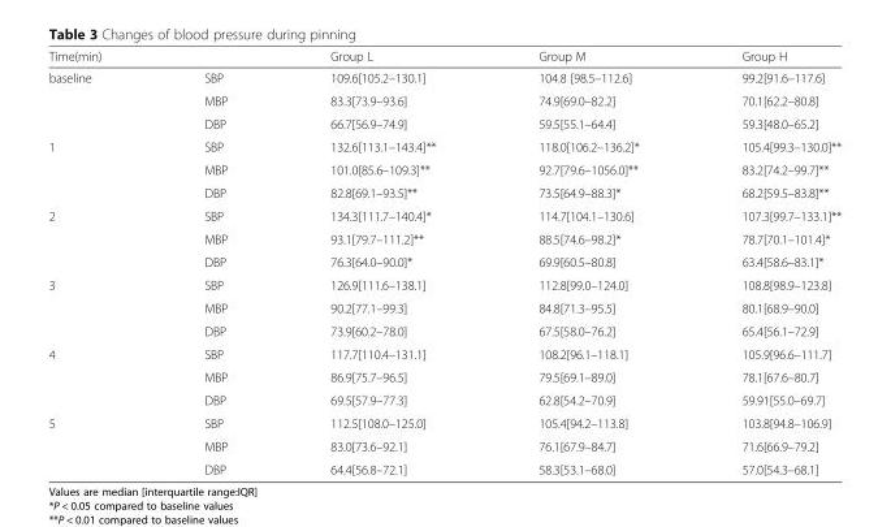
<table><thead><tr><td>Time(min)</td><td></td><td>Group L</td><td>Group M</td><td>Group H</td></tr></thead><tbody><tr><td rowspan="3">baseline</td><td>SBP</td><td>109.6[105.2–130.1]</td><td>104.8 [98.5–112.6]</td><td>99.2[91.6–117.6]</td></tr><tr><td>MBP</td><td>83.3[73.9–93.6]</td><td>74.9[69.0–82.2]</td><td>70.1[62.2–80.8]</td></tr><tr><td>DBP</td><td>66.7[56.9–74.9]</td><td>59.5[55.1–64.4]</td><td>59.3[48.0–65.2]</td></tr><tr><td rowspan="3">1</td><td>SBP</td><td>132.6[113.1–143.4]**</td><td>118.0[106.2–136.2]*</td><td>105.4[99.3–130.0]**</td></tr><tr><td>MBP</td><td>101.0[85.6–109.3]**</td><td>92.7[79.6–1056.0]**</td><td>83.2[74.2–99.7]**</td></tr><tr><td>DBP</td><td>82.8[69.1–93.5]**</td><td>73.5[64.9–88.3]*</td><td>68.2[59.5–83.8]**</td></tr><tr><td rowspan="3">2</td><td>SBP</td><td>134.3[111.7–140.4]*</td><td>114.7[104.1–130.6]</td><td>107.3[99.7–133.1]**</td></tr><tr><td>MBP</td><td>93.1[79.7–111.2]**</td><td>88.5[74.6–98.2]*</td><td>78.7[70.1–101.4]*</td></tr><tr><td>DBP</td><td>76.3[64.0–90.0]*</td><td>69.9[60.5–80.8]</td><td>63.4[58.6–83.1]*</td></tr><tr><td rowspan="3">3</td><td>SBP</td><td>126.9[111.6–138.1]</td><td>112.8[99.0–124.0]</td><td>108.8[98.9–123.8]</td></tr><tr><td>MBP</td><td>90.2[77.1–99.3]</td><td>84.8[71.3–95.5]</td><td>80.1[68.9–90.0]</td></tr><tr><td>DBP</td><td>73.9[60.2–78.0]</td><td>67.5[58.0–76.2]</td><td>65.4[56.1–72.9]</td></tr><tr><td rowspan="3">4</td><td>SBP</td><td>117.7[110.4–131.1]</td><td>108.2[96.1–118.1]</td><td>105.9[96.6–111.7]</td></tr><tr><td>MBP</td><td>86.9[75.7–96.5]</td><td>79.5[69.1–89.0]</td><td>78.1[67.6–80.7]</td></tr><tr><td>DBP</td><td>69.5[57.9–77.3]</td><td>62.8[54.2–70.9]</td><td>59.91[55.0–69.7]</td></tr><tr><td rowspan="3">5</td><td>SBP</td><td>112.5[108.0–125.0]</td><td>105.4[94.2–113.8]</td><td>103.8[94.8–106.9]</td></tr><tr><td>MBP</td><td>83.0[73.6–92.1]</td><td>76.1[67.9–84.7]</td><td>71.6[66.9–79.2]</td></tr><tr><td>DBP</td><td>64.4[56.8–72.1]</td><td>58.3[53.1–68.0]</td><td>57.0[54.3–68.1]</td></tr></tbody></table>